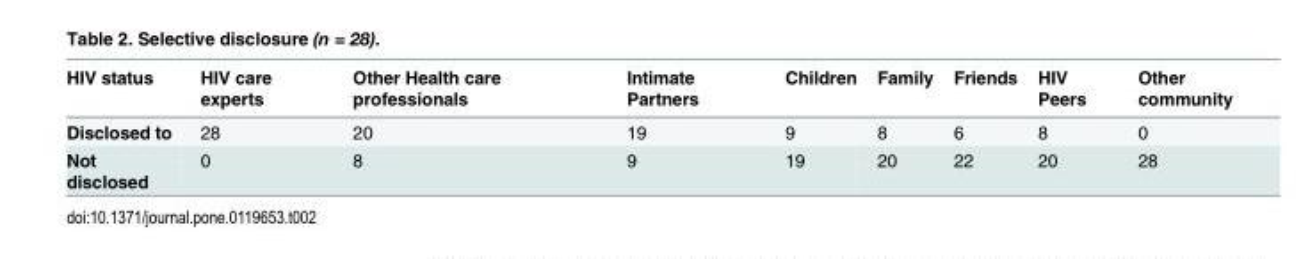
<table><thead><tr><td>HIV status</td><td>HIV care experts</td><td>Other Health care professionals</td><td>Intimate Partners</td><td>Children</td><td>Family</td><td>Friends</td><td>HIV Peers</td><td>Other community</td></tr></thead><tbody><tr><td>Disclosed to</td><td>28</td><td>20</td><td>19</td><td>9</td><td>8</td><td>6</td><td>8</td><td>0</td></tr><tr><td>Not disclosed</td><td>0</td><td>8</td><td>9</td><td>19</td><td>20</td><td>22</td><td>20</td><td>28</td></tr></tbody></table>